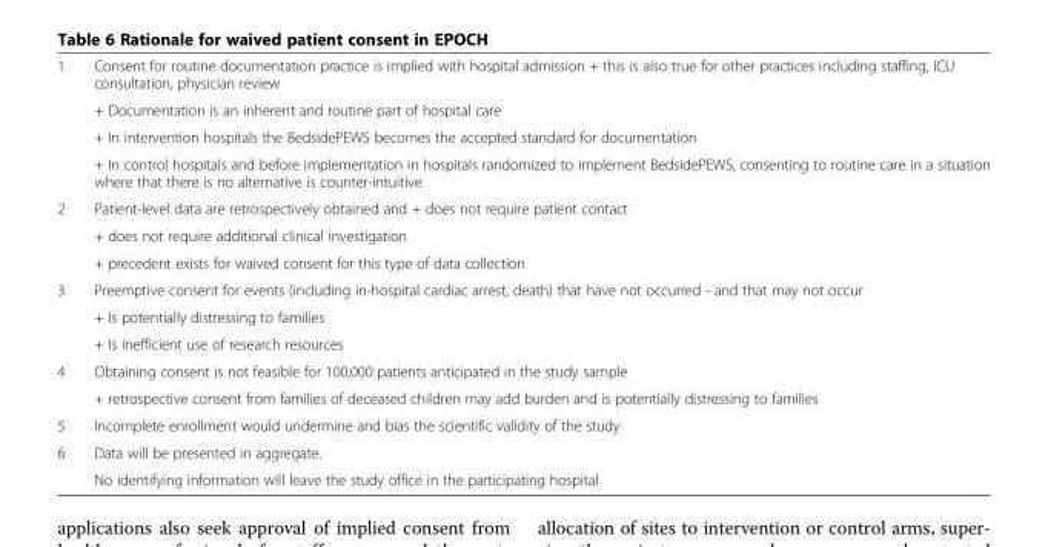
<table><tbody><tr><td rowspan="4">1</td><td>Consent for routine documentation practice is implied with hospital admission + this is also true for other practices including staffing, ICU consultation, physician review</td></tr><tr><td>+ Documentation is an inherent and routine part of hospital care</td></tr><tr><td>+ In intervention hospitals the BedsidePEWS becomes the accepted standard for documentation</td></tr><tr><td>+ In control hospitals and before implementation in hospitals randomized to implement BedsidePEWS, consenting to routine care in a situation where that there is no alternative is counter-intuitive</td></tr><tr><td rowspan="3">2</td><td>Patient-level data are retrospectively obtained and + does not require patient contact</td></tr><tr><td>+ does not require additional clinical investigation</td></tr><tr><td>+ precedent exists for waived consent for this type of data collection</td></tr><tr><td rowspan="3">3</td><td>Preemptive consent for events (including in-hospital cardiac arrest, death) that have not occurred - and that may not occur</td></tr><tr><td>+ Is potentially distressing to families</td></tr><tr><td>+ Is inefficient use of research resources</td></tr><tr><td rowspan="2">4</td><td>Obtaining consent is not feasible for 100,000 patients anticipated in the study sample</td></tr><tr><td>+ retrospective consent from families of deceased children may add burden and is potentially distressing to families</td></tr><tr><td>5</td><td>Incomplete enrollment would undermine and bias the scientific validity of the study</td></tr><tr><td rowspan="2">6</td><td>Data will be presented in aggregate.</td></tr><tr><td>No identifying information will leave the study office in the participating hospital</td></tr></tbody></table>